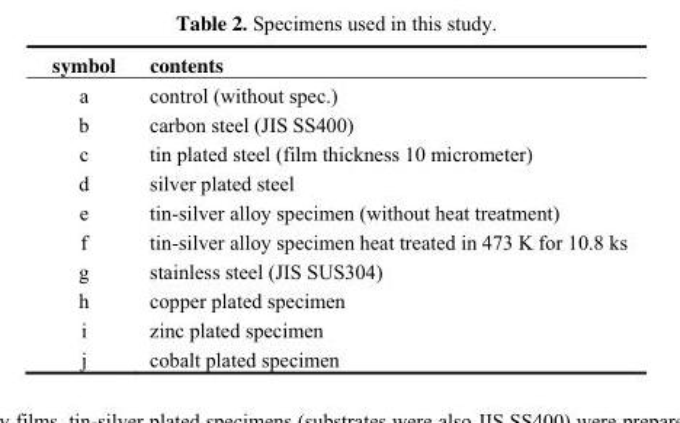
<table><thead><tr><td>symbol</td><td>contents</td></tr></thead><tbody><tr><td>a</td><td>control (without spec.)</td></tr><tr><td>b</td><td>carbon steel (JIS SS400)</td></tr><tr><td>c</td><td>tin plated steel (film thickness 10 micrometer)</td></tr><tr><td>d</td><td>silver plated steel</td></tr><tr><td>e</td><td>tin-silver alloy specimen (without heat treatment)</td></tr><tr><td>f</td><td>tin-silver alloy specimen heat treated in 473 K for 10.8 ks</td></tr><tr><td>g</td><td>stainless steel (JIS SUS304)</td></tr><tr><td>h</td><td>copper plated specimen</td></tr><tr><td>i</td><td>zinc plated specimen</td></tr><tr><td>j</td><td>cobalt plated specimen</td></tr></tbody></table>